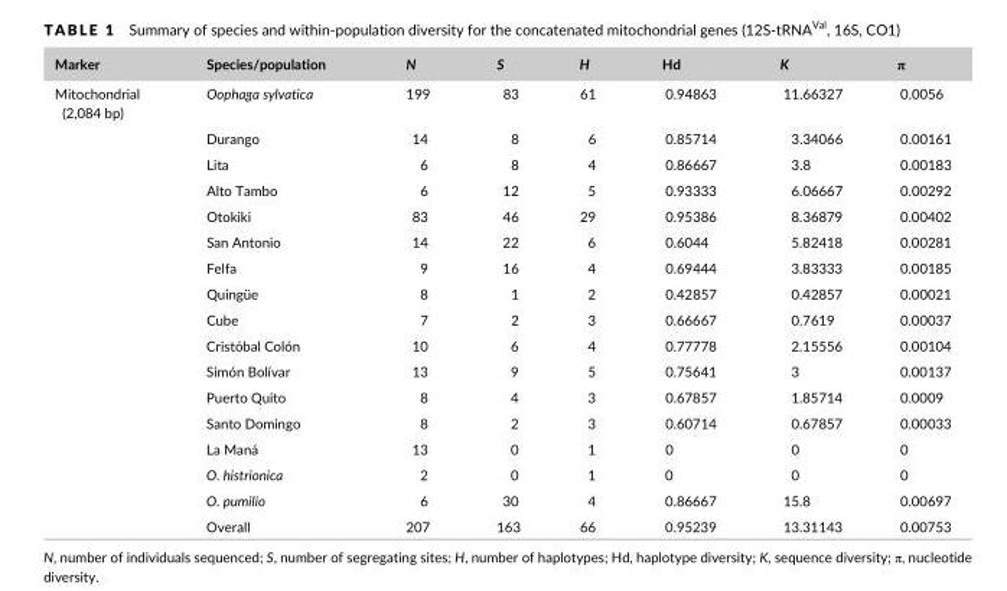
<table><thead><tr><td>Marker</td><td>Species/population</td><td>N</td><td>S</td><td>H</td><td>Hd</td><td>K</td><td>π</td></tr></thead><tbody><tr><td rowspan="17">Mitochondrial (2,084 bp)</td><td>Oophaga sylvatica</td><td>199</td><td>83</td><td>61</td><td>0.94863</td><td>11.66327</td><td>0.0056</td></tr><tr><td>Durango</td><td>14</td><td>8</td><td>6</td><td>0.85714</td><td>3.34066</td><td>0.00161</td></tr><tr><td>Lita</td><td>6</td><td>8</td><td>4</td><td>0.86667</td><td>3.8</td><td>0.00183</td></tr><tr><td>Alto Tambo</td><td>6</td><td>12</td><td>5</td><td>0.93333</td><td>6.06667</td><td>0.00292</td></tr><tr><td>Otokiki</td><td>83</td><td>46</td><td>29</td><td>0.95386</td><td>8.36879</td><td>0.00402</td></tr><tr><td>San Antonio</td><td>14</td><td>22</td><td>6</td><td>0.6044</td><td>5.82418</td><td>0.00281</td></tr><tr><td>Felfa</td><td>9</td><td>16</td><td>4</td><td>0.69444</td><td>3.83333</td><td>0.00185</td></tr><tr><td>Quingüe</td><td>8</td><td>1</td><td>2</td><td>0.42857</td><td>0.42857</td><td>0.00021</td></tr><tr><td>Cube</td><td>7</td><td>2</td><td>3</td><td>0.66667</td><td>0.7619</td><td>0.00037</td></tr><tr><td>Cristóbal Colón</td><td>10</td><td>6</td><td>4</td><td>0.77778</td><td>2.15556</td><td>0.00104</td></tr><tr><td>Simón Bolívar</td><td>13</td><td>9</td><td>5</td><td>0.75641</td><td>3</td><td>0.00137</td></tr><tr><td>Puerto Quito</td><td>8</td><td>4</td><td>3</td><td>0.67857</td><td>1.85714</td><td>0.0009</td></tr><tr><td>Santo Domingo</td><td>8</td><td>2</td><td>3</td><td>0.60714</td><td>0.67857</td><td>0.00033</td></tr><tr><td>La Maná</td><td>13</td><td>0</td><td>1</td><td>0</td><td>0</td><td>0</td></tr><tr><td>O. histrionica</td><td>2</td><td>0</td><td>1</td><td>0</td><td>0</td><td>0</td></tr><tr><td>O. pumilio</td><td>6</td><td>30</td><td>4</td><td>0.86667</td><td>15.8</td><td>0.00697</td></tr><tr><td>Overall</td><td>207</td><td>163</td><td>66</td><td>0.95239</td><td>13.31143</td><td>0.00753</td></tr></tbody></table>